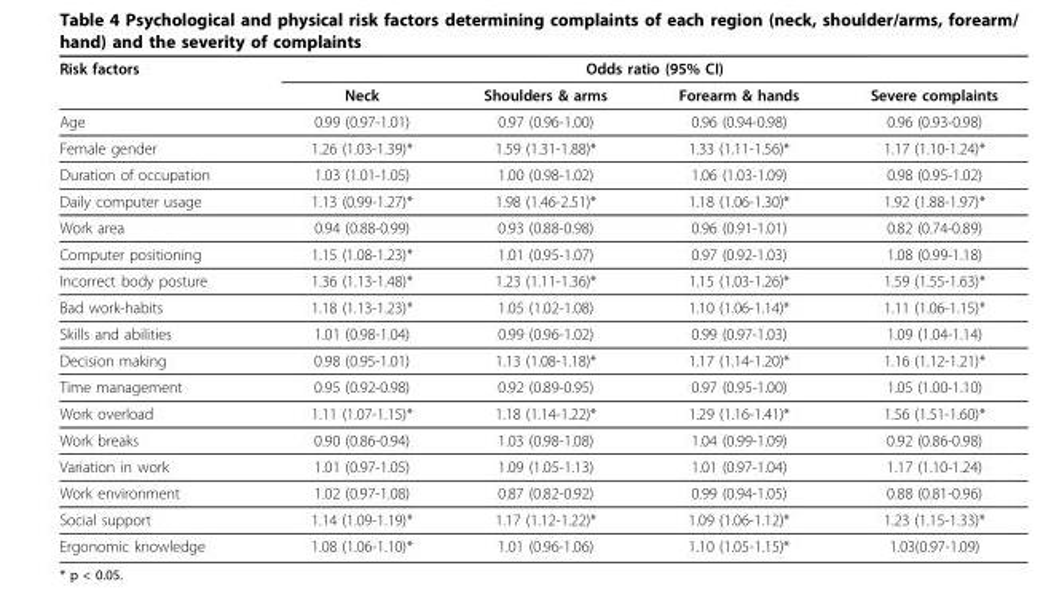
<table><thead><tr><td rowspan="2">Risk factors</td><td colspan="4">Odds ratio (95% CI)</td></tr><tr><td>Neck</td><td>Shoulders &amp; arms</td><td>Forearm &amp; hands</td><td>Severe complaints</td></tr></thead><tbody><tr><td>Age</td><td>0.99 (0.97-1.01)</td><td>0.97 (0.96-1.00)</td><td>0.96 (0.94-0.98)</td><td>0.96 (0.93-0.98)</td></tr><tr><td>Female gender</td><td>1.26 (1.03-1.39)*</td><td>1.59 (1.31-1.88)*</td><td>1.33 (1.11-1.56)*</td><td>1.17 (1.10-1.24)*</td></tr><tr><td>Duration of occupation</td><td>1.03 (1.01-1.05)</td><td>1.00 (0.98-1.02)</td><td>1.06 (1.03-1.09)</td><td>0.98 (0.95-1.02)</td></tr><tr><td>Daily computer usage</td><td>1.13 (0.99-1.27)*</td><td>1.98 (1.46-2.51)*</td><td>1.18 (1.06-1.30)*</td><td>1.92 (1.88-1.97)*</td></tr><tr><td>Work area</td><td>0.94 (0.88-0.99)</td><td>0.93 (0.88-0.98)</td><td>0.96 (0.91-1.01)</td><td>0.82 (0.74-0.89)</td></tr><tr><td>Computer positioning</td><td>1.15 (1.08-1.23)*</td><td>1.01 (0.95-1.07)</td><td>0.97 (0.92-1.03)</td><td>1.08 (0.99-1.18)</td></tr><tr><td>Incorrect body posture</td><td>1.36 (1.13-1.48)*</td><td>1.23 (1.11-1.36)*</td><td>1.15 (1.03-1.26)*</td><td>1.59 (1.55-1.63)*</td></tr><tr><td>Bad work-habits</td><td>1.18 (1.13-1.23)*</td><td>1.05 (1.02-1.08)</td><td>1.10 (1.06-1.14)*</td><td>1.11 (1.06-1.15)*</td></tr><tr><td>Skills and abilities</td><td>1.01 (0.98-1.04)</td><td>0.99 (0.96-1.02)</td><td>0.99 (0.97-1.03)</td><td>1.09 (1.04-1.14)</td></tr><tr><td>Decision making</td><td>0.98 (0.95-1.01)</td><td>1.13 (1.08-1.18)*</td><td>1.17 (1.14-1.20)*</td><td>1.16 (1.12-1.21)*</td></tr><tr><td>Time management</td><td>0.95 (0.92-0.98)</td><td>0.92 (0.89-0.95)</td><td>0.97 (0.95-1.00)</td><td>1.05 (1.00-1.10)</td></tr><tr><td>Work overload</td><td>1.11 (1.07-1.15)*</td><td>1.18 (1.14-1.22)*</td><td>1.29 (1.16-1.41)*</td><td>1.56 (1.51-1.60)*</td></tr><tr><td>Work breaks</td><td>0.90 (0.86-0.94)</td><td>1.03 (0.98-1.08)</td><td>1.04 (0.99-1.09)</td><td>0.92 (0.86-0.98)</td></tr><tr><td>Variation in work</td><td>1.01 (0.97-1.05)</td><td>1.09 (1.05-1.13)</td><td>1.01 (0.97-1.04)</td><td>1.17 (1.10-1.24)</td></tr><tr><td>Work environment</td><td>1.02 (0.97-1.08)</td><td>0.87 (0.82-0.92)</td><td>0.99 (0.94-1.05)</td><td>0.88 (0.81-0.96)</td></tr><tr><td>Social support</td><td>1.14 (1.09-1.19)*</td><td>1.17 (1.12-1.22)*</td><td>1.09 (1.06-1.12)*</td><td>1.23 (1.15-1.33)*</td></tr><tr><td>Ergonomic knowledge</td><td>1.08 (1.06-1.10)*</td><td>1.01 (0.96-1.06)</td><td>1.10 (1.05-1.15)*</td><td>1.03(0.97-1.09)</td></tr></tbody></table>